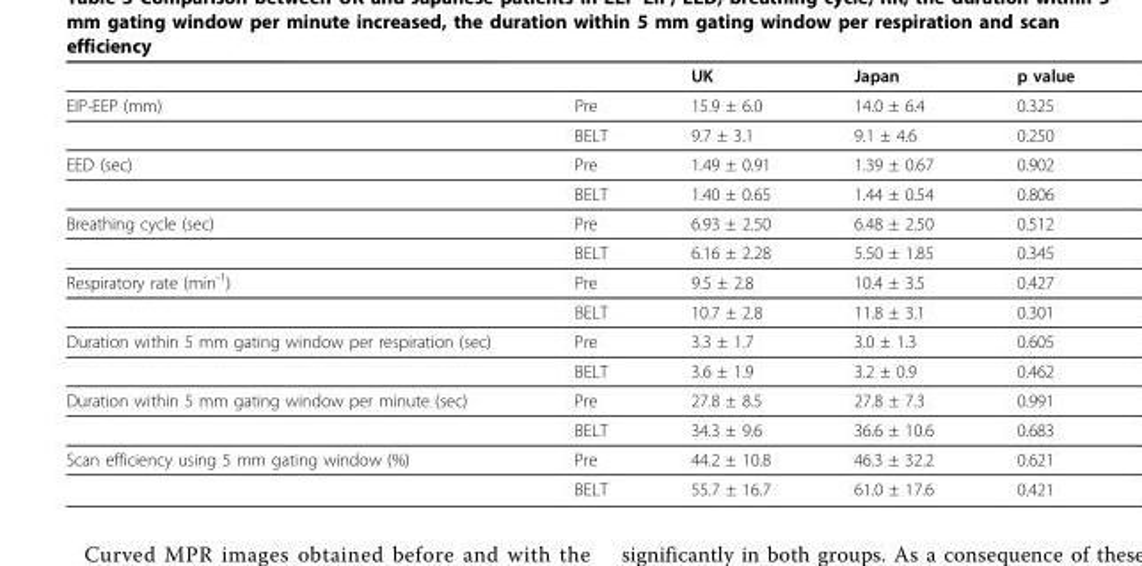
<table><thead><tr><td></td><td></td><td>UK</td><td>Japan</td><td>p value</td></tr></thead><tbody><tr><td rowspan="2">EIP-EEP (mm)</td><td>Pre</td><td>15.9 ± 6.0</td><td>14.0 ± 6.4</td><td>0.325</td></tr><tr><td>BELT</td><td>9.7 ± 3.1</td><td>9.1 ± 4.6</td><td>0.250</td></tr><tr><td rowspan="2">EED (sec)</td><td>Pre</td><td>1.49 ± 0.91</td><td>1.39 ± 0.67</td><td>0.902</td></tr><tr><td>BELT</td><td>1.40 ± 0.65</td><td>1.44 ± 0.54</td><td>0.806</td></tr><tr><td rowspan="2">Breathing cycle (sec)</td><td>Pre</td><td>6.93 ± 2.50</td><td>6.48 ± 2.50</td><td>0.512</td></tr><tr><td>BELT</td><td>6.16 ± 2.28</td><td>5.50 ± 1.85</td><td>0.345</td></tr><tr><td rowspan="2">Respiratory rate (min-1)</td><td>Pre</td><td>9.5 ± 2.8</td><td>10.4 ± 3.5</td><td>0.427</td></tr><tr><td>BELT</td><td>10.7 ± 2.8</td><td>11.8 ± 3.1</td><td>0.301</td></tr><tr><td rowspan="2">Duration within 5 mm gating window per respiration (sec)</td><td>Pre</td><td>3.3 ± 1.7</td><td>3.0 ± 1.3</td><td>0.605</td></tr><tr><td>BELT</td><td>3.6 ± 1.9</td><td>3.2 ± 0.9</td><td>0.462</td></tr><tr><td rowspan="2">Duration within 5 mm gating window per minute (sec)</td><td>Pre</td><td>27.8 ± 8.5</td><td>27.8 ± 7.3</td><td>0.991</td></tr><tr><td>BELT</td><td>34.3 ± 9.6</td><td>36.6 ± 10.6</td><td>0.683</td></tr><tr><td rowspan="2">Scan efficiency using 5 mm gating window (%)</td><td>Pre</td><td>44.2 ± 10.8</td><td>46.3 ± 32.2</td><td>0.621</td></tr><tr><td>BELT</td><td>55.7 ± 16.7</td><td>61.0 ± 17.6</td><td>0.421</td></tr></tbody></table>